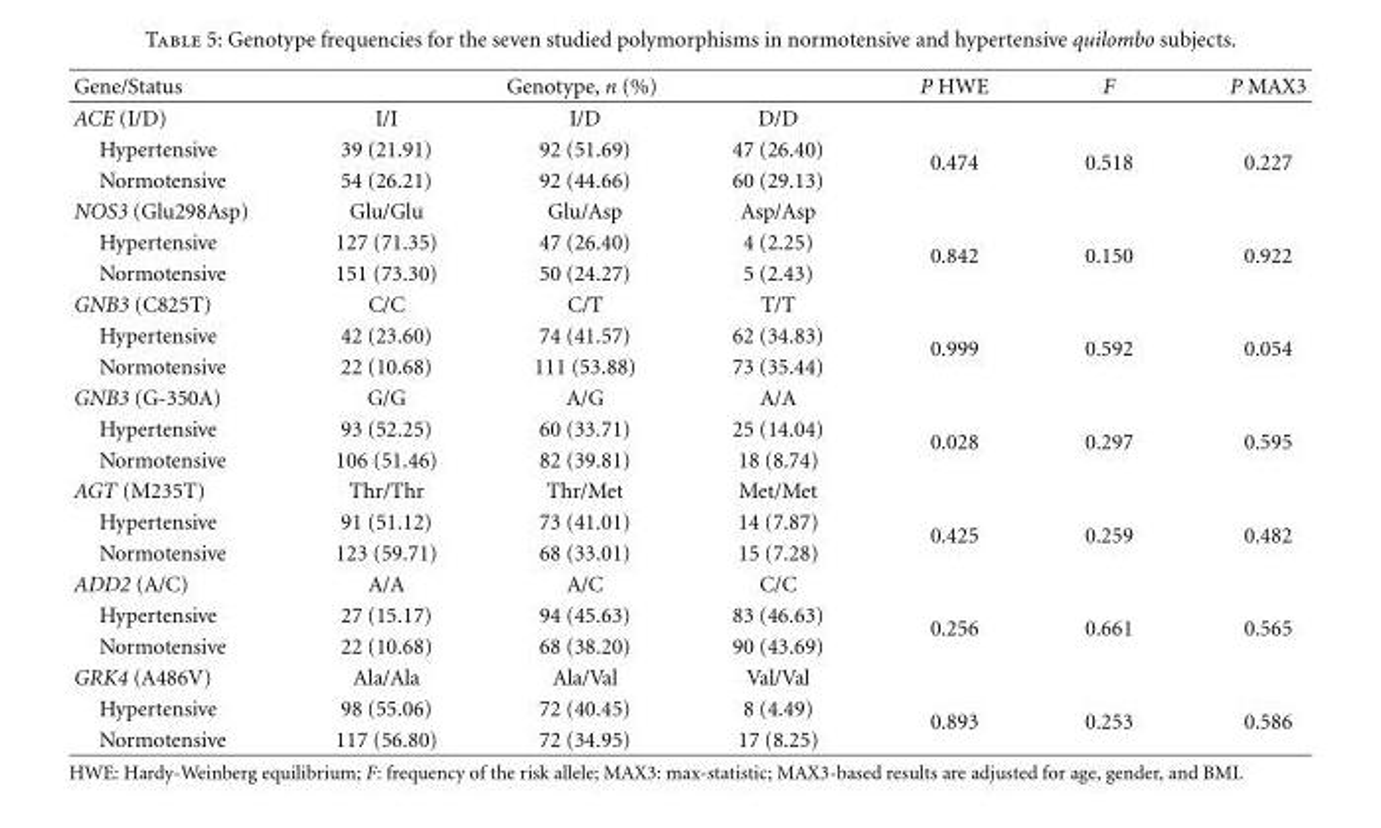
<table><thead><tr><td rowspan="2">Gene/Status ACE (I/D)</td><td colspan="3">Genotype, n (%)</td><td rowspan="2">P HWE</td><td rowspan="2">F</td><td rowspan="2">P MAX3</td></tr><tr><td>I/I</td><td>I/D</td><td>D/D</td></tr></thead><tbody><tr><td>Hypertensive</td><td>39 (21.91)</td><td>92 (51.69)</td><td>47 (26.40)</td><td rowspan="2">0.474</td><td rowspan="2">0.518</td><td rowspan="2">0.227</td></tr><tr><td>Normotensive</td><td>54 (26.21)</td><td>92 (44.66)</td><td>60 (29.13)</td></tr><tr><td>NOS3 (Glu298Asp)</td><td>Glu/Glu</td><td>Glu/Asp</td><td>Asp/Asp</td><td></td><td></td><td></td></tr><tr><td>Hypertensive</td><td>127 (71.35)</td><td>47 (26.40)</td><td>4 (2.25)</td><td rowspan="2">0.842</td><td rowspan="2">0.150</td><td rowspan="2">0.922</td></tr><tr><td>Normotensive</td><td>151 (73.30)</td><td>50 (24.27)</td><td>5 (2.43)</td></tr><tr><td>GNB3 (C825T)</td><td>C/C</td><td>C/T</td><td>T/T</td><td></td><td></td><td></td></tr><tr><td>Hypertensive</td><td>42 (23.60)</td><td>74 (41.57)</td><td>62 (34.83)</td><td rowspan="2">0.999</td><td rowspan="2">0.592</td><td rowspan="2">0.054</td></tr><tr><td>Normotensive</td><td>22 (10.68)</td><td>111 (53.88)</td><td>73 (35.44)</td></tr><tr><td>GNB3 (G-350A)</td><td>G/G</td><td>A/G</td><td>A/A</td><td></td><td></td><td></td></tr><tr><td>Hypertensive</td><td>93 (52.25)</td><td>60 (33.71)</td><td>25 (14.04)</td><td rowspan="2">0.028</td><td rowspan="2">0.297</td><td rowspan="2">0.595</td></tr><tr><td>Normotensive</td><td>106 (51.46)</td><td>82 (39.81)</td><td>18 (8.74)</td></tr><tr><td>AGT (M235T)</td><td>Thr/Thr</td><td>Thr/Met</td><td>Met/Met</td><td></td><td></td><td></td></tr><tr><td>Hypertensive</td><td>91 (51.12)</td><td>73 (41.01)</td><td>14 (7.87)</td><td rowspan="2">0.425</td><td rowspan="2">0.259</td><td rowspan="2">0.482</td></tr><tr><td>Normotensive</td><td>123 (59.71)</td><td>68 (33.01)</td><td>15 (7.28)</td></tr><tr><td>ADD2 (A/C)</td><td>A/A</td><td>A/C</td><td>C/C</td><td></td><td></td><td></td></tr><tr><td>Hypertensive</td><td>27 (15.17)</td><td>94 (45.63)</td><td>83 (46.63)</td><td rowspan="2">0.256</td><td rowspan="2">0.661</td><td rowspan="2">0.565</td></tr><tr><td>Normotensive</td><td>22 (10.68)</td><td>68 (38.20)</td><td>90 (43.69)</td></tr><tr><td>GRK4 (A486V)</td><td>Ala/Ala</td><td>Ala/Val</td><td>Val/Val</td><td></td><td></td><td></td></tr><tr><td>Hypertensive</td><td>98 (55.06)</td><td>72 (40.45)</td><td>8 (4.49)</td><td rowspan="2">0.893</td><td rowspan="2">0.253</td><td rowspan="2">0.586</td></tr><tr><td>Normotensive</td><td>117 (56.80)</td><td>72 (34.95)</td><td>17 (8.25)</td></tr></tbody></table>